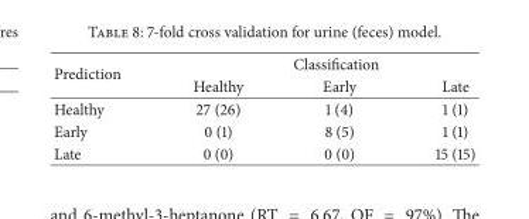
<table><thead><tr><td rowspan="2">Prediction</td><td colspan="3">Classification</td></tr><tr><td>Healthy</td><td>Early</td><td>Late</td></tr></thead><tbody><tr><td>Healthy</td><td>27 (26)</td><td>1 (4)</td><td>1 (1)</td></tr><tr><td>Early</td><td>0 (1)</td><td>8 (5)</td><td>1 (1)</td></tr><tr><td>Late</td><td>0 (0)</td><td>0 (0)</td><td>15 (15)</td></tr></tbody></table>